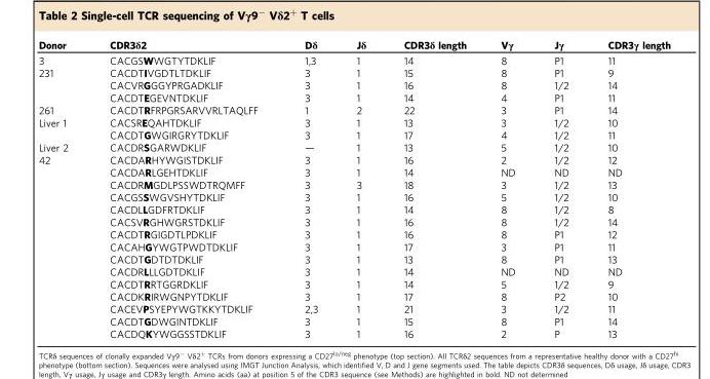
<table><thead><tr><td>Donor</td><td>CDR3δ2</td><td>Dδ</td><td>Jδ</td><td>CDR3δ length</td><td>Vγ</td><td>Jγ</td><td>CDR3γ length</td></tr></thead><tbody><tr><td>3</td><td>CACGSWWGTYTDKLIF</td><td>1,3</td><td>1</td><td>14</td><td>8</td><td>P1</td><td>11</td></tr><tr><td rowspan="3">231</td><td>CACDTIVGDTLTDKLIF</td><td>3</td><td>1</td><td>15</td><td>8</td><td>P1</td><td>9</td></tr><tr><td>CACVRGGGYPRGADKLIF</td><td>3</td><td>1</td><td>16</td><td>8</td><td>1/2</td><td>14</td></tr><tr><td>CACDTEGEVNTDKLIF</td><td>3</td><td>1</td><td>14</td><td>4</td><td>P1</td><td>11</td></tr><tr><td>261</td><td>CACDTRFRPGRSARVVRLTAQLFF</td><td>1</td><td>2</td><td>22</td><td>3</td><td>P1</td><td>14</td></tr><tr><td rowspan="2">Liver 1</td><td>CACSREQAHTDKLIF</td><td>3</td><td>1</td><td>13</td><td>3</td><td>1/2</td><td>10</td></tr><tr><td>CACDTGWGIRGRYTDKLIF</td><td>3</td><td>1</td><td>17</td><td>4</td><td>1/2</td><td>11</td></tr><tr><td>Liver 2</td><td>CACDRSGARWDKLIF</td><td>—</td><td>1</td><td>13</td><td>5</td><td>1/2</td><td>10</td></tr><tr><td rowspan="15">42</td><td>CACDARHYWGISTDKLIF</td><td>3</td><td>1</td><td>16</td><td>2</td><td>1/2</td><td>12</td></tr><tr><td>CACDARLGEHTDKLIF</td><td>3</td><td>1</td><td>14</td><td>ND</td><td>ND</td><td>ND</td></tr><tr><td>CACDRMGDLPSSWDTRQMFF</td><td>3</td><td>3</td><td>18</td><td>3</td><td>1/2</td><td>13</td></tr><tr><td>CACGSSWGVSHYTDKLIF</td><td>3</td><td>1</td><td>16</td><td>5</td><td>1/2</td><td>10</td></tr><tr><td>CACDLLGDFRTDKLIF</td><td>3</td><td>1</td><td>14</td><td>8</td><td>1/2</td><td>8</td></tr><tr><td>CACSVRGHWGRSTDKLIF</td><td>3</td><td>1</td><td>16</td><td>8</td><td>1/2</td><td>14</td></tr><tr><td>CACDTRGIGDTLPDKLIF</td><td>3</td><td>1</td><td>16</td><td>8</td><td>P1</td><td>12</td></tr><tr><td>CACAHGYWGTPWDTDKLIF</td><td>3</td><td>1</td><td>17</td><td>3</td><td>P1</td><td>11</td></tr><tr><td>CACDTGDTDTDKLIF</td><td>3</td><td>1</td><td>13</td><td>8</td><td>P1</td><td>13</td></tr><tr><td>CACDRLLLGDTDKLIF</td><td>3</td><td>1</td><td>14</td><td>ND</td><td>ND</td><td>ND</td></tr><tr><td>CACDTRRTGGRDKLIF</td><td>3</td><td>1</td><td>14</td><td>5</td><td>1/2</td><td>9</td></tr><tr><td>CACDKRIRWGNPYTDKLIF</td><td>3</td><td>1</td><td>17</td><td>8</td><td>P2</td><td>10</td></tr><tr><td>CACEVPSYEPYWGTKKYTDKLIF</td><td>2,3</td><td>1</td><td>21</td><td>3</td><td>1/2</td><td>11</td></tr><tr><td>CACDTGDWGINTDKLIF</td><td>3</td><td>1</td><td>15</td><td>8</td><td>P1</td><td>14</td></tr><tr><td>CACDQKYWGGSSTDKLIF</td><td>3</td><td>1</td><td>16</td><td>2</td><td>P</td><td>13</td></tr></tbody></table>